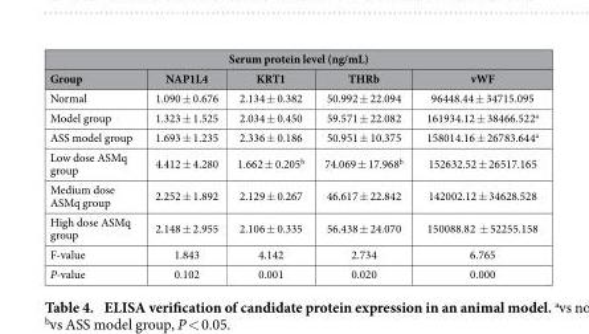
<table><thead><tr><td colspan="5">Serum protein level (ng/mL)</td></tr><tr><td>Group</td><td>NAP1L4</td><td>KRT1</td><td>THRb</td><td>vWF</td></tr></thead><tbody><tr><td>Normal</td><td>1.090 ± 0.676</td><td>2.134 ± 0.382</td><td>50.992 ± 22.094</td><td>96448.44 ± 34715.095</td></tr><tr><td>Model group</td><td>1.323 ± 1.525</td><td>2.034 ± 0.450</td><td>59.571 ± 22.082</td><td>161934.12 ± 38466.522<sup>a</sup></td></tr><tr><td>ASS model group</td><td>1.693 ± 1.235</td><td>2.336 ± 0.186</td><td>50.951 ± 10.375</td><td>158014.16 ± 26783.644<sup>a</sup></td></tr><tr><td>Low dose ASMq group</td><td>4.412 ± 4.280</td><td>1.662 ± 0.205<sup>b</sup></td><td>74.069 ± 17.968<sup>b</sup></td><td>152632.52 ± 26517.165</td></tr><tr><td>Medium dose ASMq group</td><td>2.252 ± 1.892</td><td>2.129 ± 0.267</td><td>46.617 ± 22.842</td><td>142002.12 ± 34628.528</td></tr><tr><td>High dose ASMq group</td><td>2.148 ± 2.955</td><td>2.106 ± 0.335</td><td>56.438 ± 24.070</td><td>150088.82 ± 52255.158</td></tr><tr><td>F-value</td><td>1.843</td><td>4.142</td><td>2.734</td><td>6.765</td></tr><tr><td>P-value</td><td>0.102</td><td>0.001</td><td>0.020</td><td>0.000</td></tr></tbody></table>